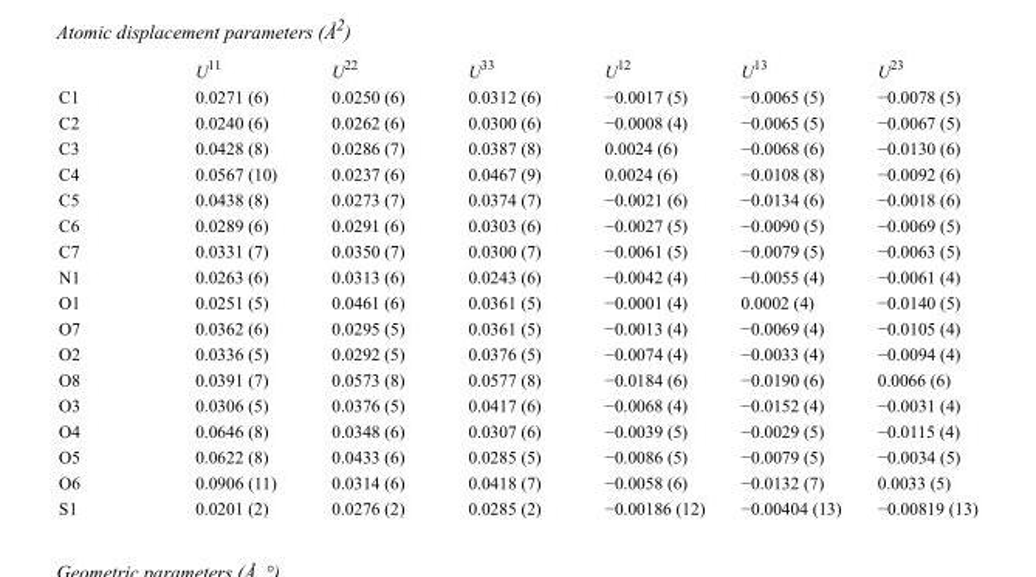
<table><thead><tr><td></td><td>U<sup>11</sup></td><td>U<sup>22</sup></td><td>U<sup>33</sup></td><td>U<sup>12</sup></td><td>U<sup>13</sup></td><td>U<sup>23</sup></td></tr></thead><tbody><tr><td>C1</td><td>0.0271 (6)</td><td>0.0250 (6)</td><td>0.0312 (6)</td><td>−0.0017 (5)</td><td>−0.0065 (5)</td><td>−0.0078 (5)</td></tr><tr><td>C2</td><td>0.0240 (6)</td><td>0.0262 (6)</td><td>0.0300 (6)</td><td>−0.0008 (4)</td><td>−0.0065 (5)</td><td>−0.0067 (5)</td></tr><tr><td>C3</td><td>0.0428 (8)</td><td>0.0286 (7)</td><td>0.0387 (8)</td><td>0.0024 (6)</td><td>−0.0068 (6)</td><td>−0.0130 (6)</td></tr><tr><td>C4</td><td>0.0567 (10)</td><td>0.0237 (6)</td><td>0.0467 (9)</td><td>0.0024 (6)</td><td>−0.0108 (8)</td><td>−0.0092 (6)</td></tr><tr><td>C5</td><td>0.0438 (8)</td><td>0.0273 (7)</td><td>0.0374 (7)</td><td>−0.0021 (6)</td><td>−0.0134 (6)</td><td>−0.0018 (6)</td></tr><tr><td>C6</td><td>0.0289 (6)</td><td>0.0291 (6)</td><td>0.0303 (6)</td><td>−0.0027 (5)</td><td>−0.0090 (5)</td><td>−0.0069 (5)</td></tr><tr><td>C7</td><td>0.0331 (7)</td><td>0.0350 (7)</td><td>0.0300 (7)</td><td>−0.0061 (5)</td><td>−0.0079 (5)</td><td>−0.0063 (5)</td></tr><tr><td>N1</td><td>0.0263 (6)</td><td>0.0313 (6)</td><td>0.0243 (6)</td><td>−0.0042 (4)</td><td>−0.0055 (4)</td><td>−0.0061 (4)</td></tr><tr><td>O1</td><td>0.0251 (5)</td><td>0.0461 (6)</td><td>0.0361 (5)</td><td>−0.0001 (4)</td><td>0.0002 (4)</td><td>−0.0140 (5)</td></tr><tr><td>O7</td><td>0.0362 (6)</td><td>0.0295 (5)</td><td>0.0361 (5)</td><td>−0.0013 (4)</td><td>−0.0069 (4)</td><td>−0.0105 (4)</td></tr><tr><td>O2</td><td>0.0336 (5)</td><td>0.0292 (5)</td><td>0.0376 (5)</td><td>−0.0074 (4)</td><td>−0.0033 (4)</td><td>−0.0094 (4)</td></tr><tr><td>O8</td><td>0.0391 (7)</td><td>0.0573 (8)</td><td>0.0577 (8)</td><td>−0.0184 (6)</td><td>−0.0190 (6)</td><td>0.0066 (6)</td></tr><tr><td>O3</td><td>0.0306 (5)</td><td>0.0376 (5)</td><td>0.0417 (6)</td><td>−0.0068 (4)</td><td>−0.0152 (4)</td><td>−0.0031 (4)</td></tr><tr><td>O4</td><td>0.0646 (8)</td><td>0.0348 (6)</td><td>0.0307 (6)</td><td>−0.0039 (5)</td><td>−0.0029 (5)</td><td>−0.0115 (4)</td></tr><tr><td>O5</td><td>0.0622 (8)</td><td>0.0433 (6)</td><td>0.0285 (5)</td><td>−0.0086 (5)</td><td>−0.0079 (5)</td><td>−0.0034 (5)</td></tr><tr><td>O6</td><td>0.0906 (11)</td><td>0.0314 (6)</td><td>0.0418 (7)</td><td>−0.0058 (6)</td><td>−0.0132 (7)</td><td>0.0033 (5)</td></tr><tr><td>S1</td><td>0.0201 (2)</td><td>0.0276 (2)</td><td>0.0285 (2)</td><td>−0.00186 (12)</td><td>−0.00404 (13)</td><td>−0.00819 (13)</td></tr></tbody></table>